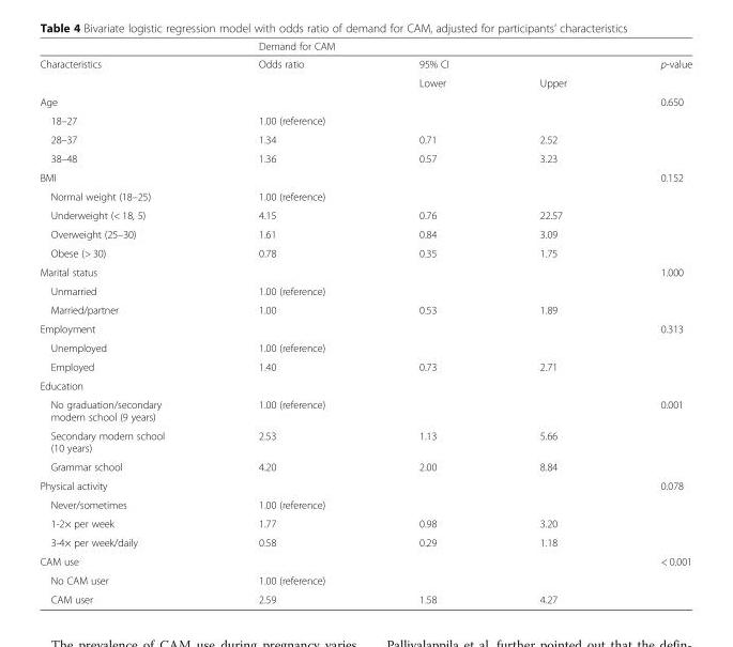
<table><thead><tr><td rowspan="3">Characteristics</td><td colspan="4">Demand for CAM</td></tr><tr><td rowspan="2">Odds ratio</td><td colspan="2">95% CI</td><td rowspan="2">p-value</td></tr><tr><td>Lower</td><td>Upper</td></tr></thead><tbody><tr><td colspan="4">Age</td><td rowspan="4">0.650</td></tr><tr><td>18–27</td><td colspan="3">1.00 (reference)</td></tr><tr><td>28–37</td><td>1.34</td><td>0.71</td><td>2.52</td></tr><tr><td>38–48</td><td>1.36</td><td>0.57</td><td>3.23</td></tr><tr><td colspan="4">BMI</td><td rowspan="5">0.152</td></tr><tr><td>Normal weight (18–25)</td><td colspan="3">1.00 (reference)</td></tr><tr><td>Underweight (&lt; 18, 5)</td><td>4.15</td><td>0.76</td><td>22.57</td></tr><tr><td>Overweight (25–30)</td><td>1.61</td><td>0.84</td><td>3.09</td></tr><tr><td>Obese (&gt; 30)</td><td>0.78</td><td>0.35</td><td>1.75</td></tr><tr><td colspan="4">Marital status</td><td rowspan="3">1.000</td></tr><tr><td>Unmarried</td><td colspan="3">1.00 (reference)</td></tr><tr><td>Married/partner</td><td>1.00</td><td>0.53</td><td>1.89</td></tr><tr><td colspan="4">Employment</td><td rowspan="3">0.313</td></tr><tr><td>Unemployed</td><td colspan="3">1.00 (reference)</td></tr><tr><td>Employed</td><td>1.40</td><td>0.73</td><td>2.71</td></tr><tr><td colspan="5">Education</td></tr><tr><td>No graduation/secondary modern school (9 years)</td><td colspan="3">1.00 (reference)</td><td rowspan="3">0.001</td></tr><tr><td>Secondary modern school (10 years)</td><td>2.53</td><td>1.13</td><td>5.66</td></tr><tr><td>Grammar school</td><td>4.20</td><td>2.00</td><td>8.84</td></tr><tr><td colspan="4">Physical activity</td><td rowspan="4">0.078</td></tr><tr><td>Never/sometimes</td><td>1.00 (reference)</td><td></td><td></td></tr><tr><td>1-2× per week</td><td>1.77</td><td>0.98</td><td>3.20</td></tr><tr><td>3-4× per week/daily</td><td>0.58</td><td>0.29</td><td>1.18</td></tr><tr><td colspan="4">CAM use</td><td rowspan="3">&lt; 0.001</td></tr><tr><td>No CAM user</td><td colspan="3">1.00 (reference)</td></tr><tr><td>CAM user</td><td>2.59</td><td>1.58</td><td>4.27</td></tr></tbody></table>